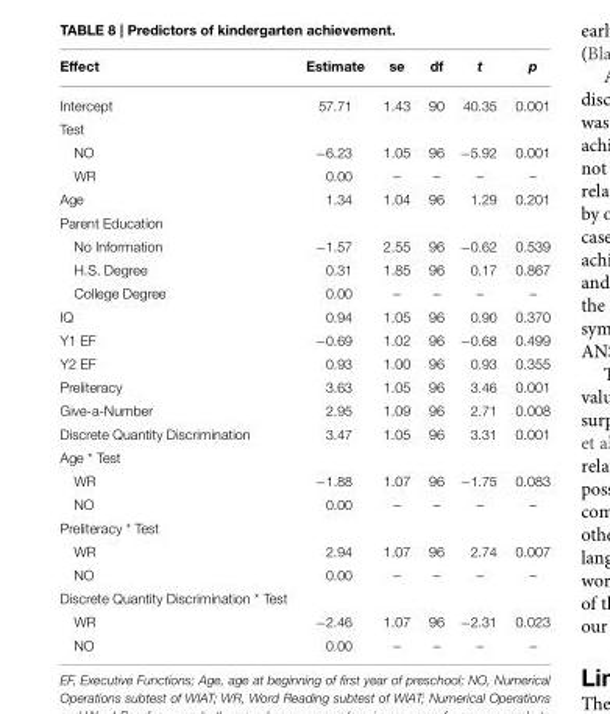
<table><thead><tr><td>Effect</td><td>Estimate</td><td>se</td><td>df</td><td>t</td><td>p</td></tr></thead><tbody><tr><td>Intercept</td><td>57.71</td><td>1.43</td><td>90</td><td>40.35</td><td>0.001</td></tr><tr><td colspan="6">Test</td></tr><tr><td>NO</td><td>−6.23</td><td>1.05</td><td>96</td><td>−5.92</td><td>0.001</td></tr><tr><td>WR</td><td>0.00</td><td>–</td><td>–</td><td>–</td><td>–</td></tr><tr><td>Age</td><td>1.34</td><td>1.04</td><td>96</td><td>1.29</td><td>0.201</td></tr><tr><td colspan="6">Parent Education</td></tr><tr><td>No Information</td><td>−1.57</td><td>2.55</td><td>96</td><td>−0.62</td><td>0.539</td></tr><tr><td>H.S. Degree</td><td>0.31</td><td>1.85</td><td>96</td><td>0.17</td><td>0.867</td></tr><tr><td>College Degree</td><td>0.00</td><td>–</td><td>–</td><td>–</td><td>–</td></tr><tr><td>IQ</td><td>0.94</td><td>1.05</td><td>96</td><td>0.90</td><td>0.370</td></tr><tr><td>Y1 EF</td><td>−0.69</td><td>1.02</td><td>96</td><td>−0.68</td><td>0.499</td></tr><tr><td>Y2 EF</td><td>0.93</td><td>1.00</td><td>96</td><td>0.93</td><td>0.355</td></tr><tr><td>Preliteracy</td><td>3.63</td><td>1.05</td><td>96</td><td>3.46</td><td>0.001</td></tr><tr><td>Give-a-Number</td><td>2.95</td><td>1.09</td><td>96</td><td>2.71</td><td>0.008</td></tr><tr><td>Discrete Quantity Discrimination</td><td>3.47</td><td>1.05</td><td>96</td><td>3.31</td><td>0.001</td></tr><tr><td colspan="6">Age * Test</td></tr><tr><td>WR</td><td>−1.88</td><td>1.07</td><td>96</td><td>−1.75</td><td>0.083</td></tr><tr><td>NO</td><td>0.00</td><td>–</td><td>–</td><td>–</td><td>–</td></tr><tr><td colspan="6">Preliteracy * Test</td></tr><tr><td>WR</td><td>2.94</td><td>1.07</td><td>96</td><td>2.74</td><td>0.007</td></tr><tr><td>NO</td><td>0.00</td><td>–</td><td>–</td><td>–</td><td>–</td></tr><tr><td colspan="6">Discrete Quantity Discrimination * Test</td></tr><tr><td>WR</td><td>−2.46</td><td>1.07</td><td>96</td><td>−2.31</td><td>0.023</td></tr><tr><td>NO</td><td>0.00</td><td>–</td><td>–</td><td>–</td><td>–</td></tr></tbody></table>